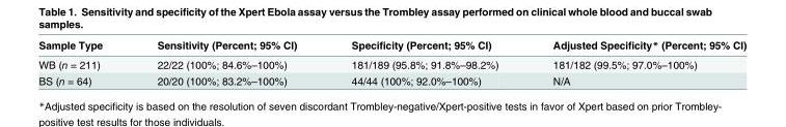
<table><thead><tr><td>Sample Type</td><td>Sensitivity (Percent; 95% CI)</td><td>Specificity (Percent; 95% CI)</td><td>Adjusted Specificity* (Percent; 95% CI)</td></tr></thead><tbody><tr><td>WB (n = 211)</td><td>22/22 (100%; 84.6%–100%)</td><td>181/189 (95.8%; 91.8%–98.2%)</td><td>181/182 (99.5%; 97.0%–100%)</td></tr><tr><td>BS (n = 64)</td><td>20/20 (100%; 83.2%–100%)</td><td>44/44 (100%; 92.0%–100%)</td><td>N/A</td></tr></tbody></table>